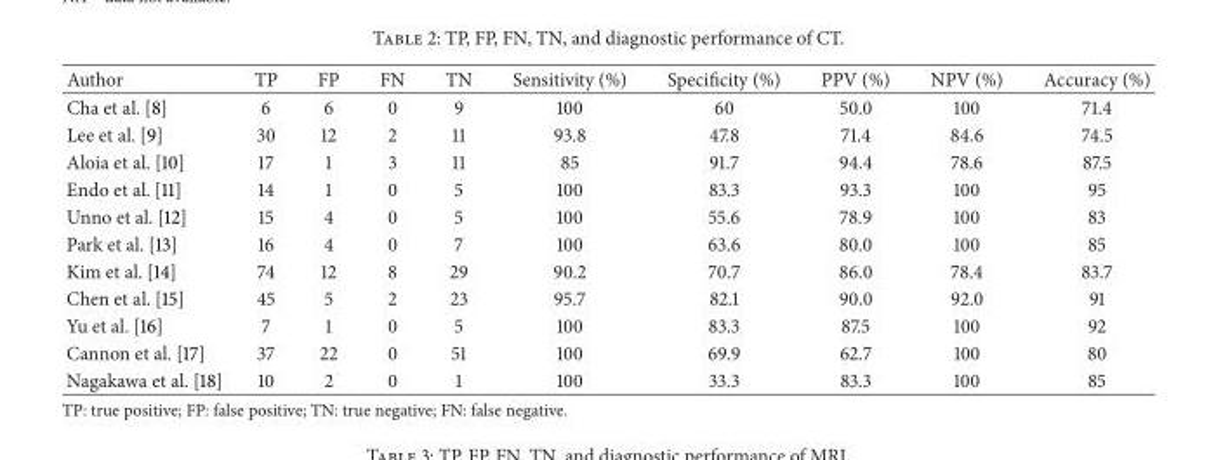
<table><thead><tr><td>Author</td><td>TP</td><td>FP</td><td>FN</td><td>TN</td><td>Sensitivity (%)</td><td>Specificity (%)</td><td>PPV (%)</td><td>NPV (%)</td><td>Accuracy (%)</td></tr></thead><tbody><tr><td>Cha et al. [8]</td><td>6</td><td>6</td><td>0</td><td>9</td><td>100</td><td>60</td><td>50.0</td><td>100</td><td>71.4</td></tr><tr><td>Lee et al. [9]</td><td>30</td><td>12</td><td>2</td><td>11</td><td>93.8</td><td>47.8</td><td>71.4</td><td>84.6</td><td>74.5</td></tr><tr><td>Aloia et al. [10]</td><td>17</td><td>1</td><td>3</td><td>11</td><td>85</td><td>91.7</td><td>94.4</td><td>78.6</td><td>87.5</td></tr><tr><td>Endo et al. [11]</td><td>14</td><td>1</td><td>0</td><td>5</td><td>100</td><td>83.3</td><td>93.3</td><td>100</td><td>95</td></tr><tr><td>Unno et al. [12]</td><td>15</td><td>4</td><td>0</td><td>5</td><td>100</td><td>55.6</td><td>78.9</td><td>100</td><td>83</td></tr><tr><td>Park et al. [13]</td><td>16</td><td>4</td><td>0</td><td>7</td><td>100</td><td>63.6</td><td>80.0</td><td>100</td><td>85</td></tr><tr><td>Kim et al. [14]</td><td>74</td><td>12</td><td>8</td><td>29</td><td>90.2</td><td>70.7</td><td>86.0</td><td>78.4</td><td>83.7</td></tr><tr><td>Chen et al. [15]</td><td>45</td><td>5</td><td>2</td><td>23</td><td>95.7</td><td>82.1</td><td>90.0</td><td>92.0</td><td>91</td></tr><tr><td>Yu et al. [16]</td><td>7</td><td>1</td><td>0</td><td>5</td><td>100</td><td>83.3</td><td>87.5</td><td>100</td><td>92</td></tr><tr><td>Cannon et al. [17]</td><td>37</td><td>22</td><td>0</td><td>51</td><td>100</td><td>69.9</td><td>62.7</td><td>100</td><td>80</td></tr><tr><td>Nagakawa et al. [18]</td><td>10</td><td>2</td><td>0</td><td>1</td><td>100</td><td>33.3</td><td>83.3</td><td>100</td><td>85</td></tr></tbody></table>